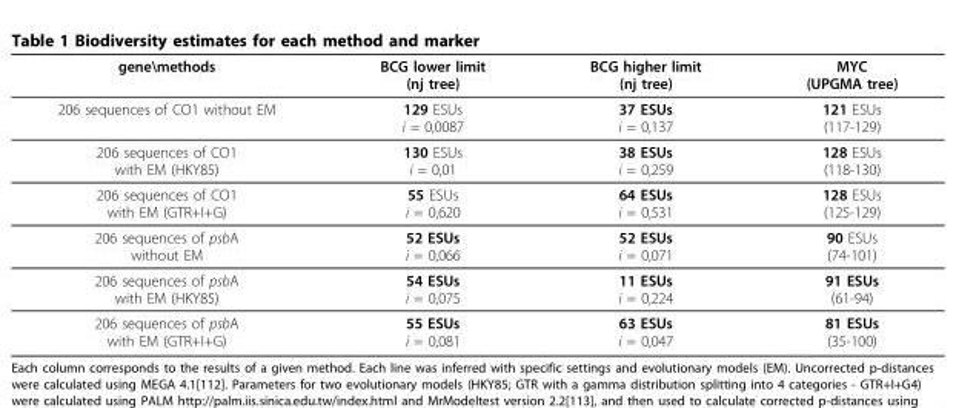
<table><thead><tr><td>gene\methods</td><td>BCG lower limit (nj tree)</td><td>BCG higher limit (nj tree)</td><td>MYC (UPGMA tree)</td></tr></thead><tbody><tr><td>206 sequences of CO1 without EM</td><td>129 ESUs i = 0,0087</td><td>37 ESUs i = 0,137</td><td>121 ESUs (117-129)</td></tr><tr><td>206 sequences of CO1 with EM (HKY85)</td><td>130 ESUs i = 0,01</td><td>38 ESUs i = 0,259</td><td>128 ESUs (118-130)</td></tr><tr><td>206 sequences of CO1 with EM (GTR+I+G)</td><td>55 ESUs i = 0,620</td><td>64 ESUs i = 0,531</td><td>128 ESUs (125-129)</td></tr><tr><td>206 sequences of psbA without EM</td><td>52 ESUs i = 0,066</td><td>52 ESUs i = 0,071</td><td>90 ESUs (74-101)</td></tr><tr><td>206 sequences of psbA with EM (HKY85)</td><td>54 ESUs i = 0,075</td><td>11 ESUs i = 0,224</td><td>91 ESUs (61-94)</td></tr><tr><td>206 sequences of psbA with EM (GTR+I+G)</td><td>55 ESUs i = 0,081</td><td>63 ESUs i = 0,047</td><td>81 ESUs (35-100)</td></tr></tbody></table>